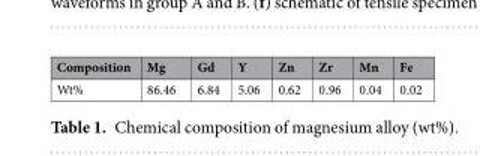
<table><thead><tr><td>Composition</td><td>Mg</td><td>Gd</td><td>Y</td><td>Zn</td><td>Zr</td><td>Mn</td><td>Fe</td></tr></thead><tbody><tr><td>Wt%</td><td>86.46</td><td>6.84</td><td>5.06</td><td>0.62</td><td>0.96</td><td>0.04</td><td>0.02</td></tr></tbody></table>